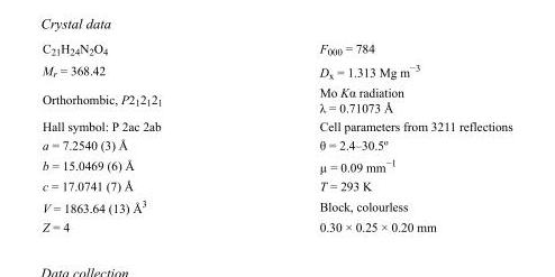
<table><tbody><tr><td>C<sub>21</sub>H<sub>24</sub>N<sub>2</sub>O<sub>4</sub></td><td>F000 = 784</td></tr><tr><td>M<sub>r</sub> = 368.42</td><td>D<sub>x</sub> = 1.313 Mg m<sup>−3</sup></td></tr><tr><td>Orthorhombic, P2<sub>1</sub>2<sub>1</sub>2<sub>1</sub></td><td>Mo Kα radiation λ = 0.71073 Å</td></tr><tr><td>Hall symbol: P 2ac 2ab</td><td>Cell parameters from 3211 reflections</td></tr><tr><td>a = 7.2540 (3) Å</td><td>θ = 2.4–30.5º</td></tr><tr><td>b = 15.0469 (6) Å</td><td>µ = 0.09 mm<sup>−1</sup></td></tr><tr><td>c = 17.0741 (7) Å</td><td>T = 293 K</td></tr><tr><td>V = 1863.64 (13) Å<sup>3</sup></td><td>Block, colourless</td></tr><tr><td>Z = 4</td><td>0.30 × 0.25 × 0.20 mm</td></tr></tbody></table>